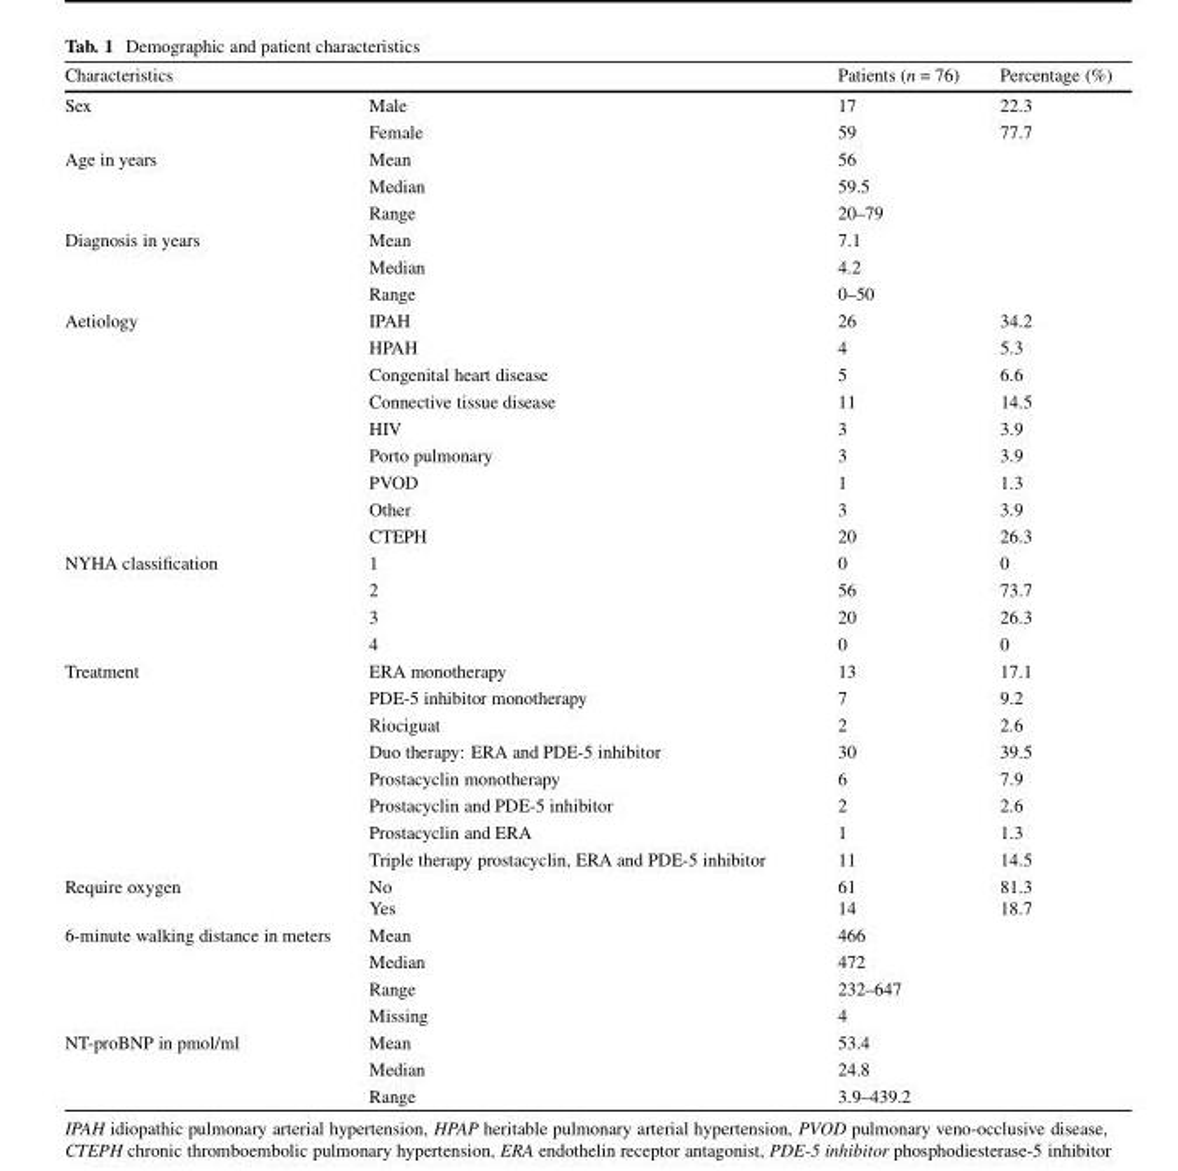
<table><thead><tr><td>Characteristics</td><td></td><td>Patients (n = 76)</td><td>Percentage (%)</td></tr></thead><tbody><tr><td rowspan="2">Sex</td><td>Male</td><td>17</td><td>22.3</td></tr><tr><td>Female</td><td>59</td><td>77.7</td></tr><tr><td rowspan="3">Age in years</td><td>Mean</td><td>56</td><td></td></tr><tr><td>Median</td><td>59.5</td><td></td></tr><tr><td>Range</td><td>20–79</td><td></td></tr><tr><td rowspan="3">Diagnosis in years</td><td>Mean</td><td>7.1</td><td></td></tr><tr><td>Median</td><td>4.2</td><td></td></tr><tr><td>Range</td><td>0–50</td><td></td></tr><tr><td rowspan="9">Aetiology</td><td>IPAH</td><td>26</td><td>34.2</td></tr><tr><td>HPAH</td><td>4</td><td>5.3</td></tr><tr><td>Congenital heart disease</td><td>5</td><td>6.6</td></tr><tr><td>Connective tissue disease</td><td>11</td><td>14.5</td></tr><tr><td>HIV</td><td>3</td><td>3.9</td></tr><tr><td>Porto pulmonary</td><td>3</td><td>3.9</td></tr><tr><td>PVOD</td><td>1</td><td>1.3</td></tr><tr><td>Other</td><td>3</td><td>3.9</td></tr><tr><td>CTEPH</td><td>20</td><td>26.3</td></tr><tr><td rowspan="4">NYHA classification</td><td>1</td><td>0</td><td>0</td></tr><tr><td>2</td><td>56</td><td>73.7</td></tr><tr><td>3</td><td>20</td><td>26.3</td></tr><tr><td>4</td><td>0</td><td>0</td></tr><tr><td rowspan="8">Treatment</td><td>ERA monotherapy</td><td>13</td><td>17.1</td></tr><tr><td>PDE-5 inhibitor monotherapy</td><td>7</td><td>9.2</td></tr><tr><td>Riociguat</td><td>2</td><td>2.6</td></tr><tr><td>Duo therapy: ERA and PDE-5 inhibitor</td><td>30</td><td>39.5</td></tr><tr><td>Prostacyclin monotherapy</td><td>6</td><td>7.9</td></tr><tr><td>Prostacyclin and PDE-5 inhibitor</td><td>2</td><td>2.6</td></tr><tr><td>Prostacyclin and ERA</td><td>1</td><td>1.3</td></tr><tr><td>Triple therapy prostacyclin, ERA and PDE-5 inhibitor</td><td>11</td><td>14.5</td></tr><tr><td>Require oxygen</td><td>No Yes</td><td>61 14</td><td>81.3 18.7</td></tr><tr><td rowspan="4">6-minute walking distance in meters</td><td>Mean</td><td>466</td><td></td></tr><tr><td>Median</td><td>472</td><td></td></tr><tr><td>Range</td><td>232–647</td><td></td></tr><tr><td>Missing</td><td>4</td><td></td></tr><tr><td rowspan="3">NT-proBNP in pmol/ml</td><td>Mean</td><td>53.4</td><td></td></tr><tr><td>Median</td><td>24.8</td><td></td></tr><tr><td>Range</td><td>3.9–439.2</td><td></td></tr></tbody></table>